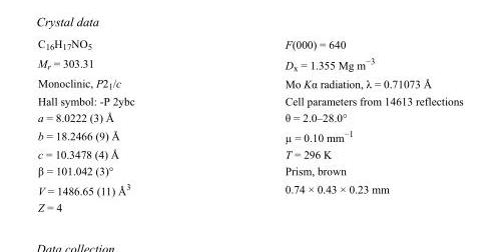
<table><tbody><tr><td>C<sub>16</sub>H<sub>17</sub>NO<sub>5</sub></td><td>F(000) = 640</td></tr><tr><td>M<sub>r</sub> = 303.31</td><td>D<sub>x</sub> = 1.355 Mg m<sup>−3</sup></td></tr><tr><td>Monoclinic, P2<sub>1</sub>/c</td><td>Mo Kα radiation, λ = 0.71073 Å</td></tr><tr><td>Hall symbol: -P 2ybc</td><td>Cell parameters from 14613 reflections</td></tr><tr><td>a = 8.0222 (3) Å</td><td>θ = 2.0–28.0°</td></tr><tr><td>b = 18.2466 (9) Å</td><td>µ = 0.10 mm<sup>−1</sup></td></tr><tr><td>c = 10.3478 (4) Å</td><td>T = 296 K</td></tr><tr><td>β = 101.042 (3)°</td><td>Prism, brown</td></tr><tr><td>V = 1486.65 (11) Å<sup>3</sup></td><td>0.74 × 0.43 × 0.23 mm</td></tr><tr><td>Z = 4</td><td></td></tr></tbody></table>